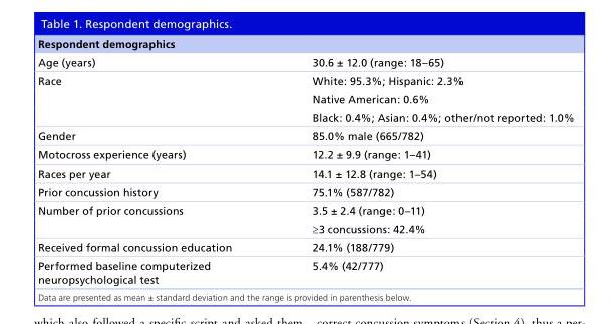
<table><thead><tr><td>Respondent demographics</td><td></td></tr></thead><tbody><tr><td>Age (years)</td><td>30.6 ± 12.0 (range: 18–65)</td></tr><tr><td rowspan="3">Race</td><td>White: 95.3%; Hispanic: 2.3%</td></tr><tr><td>Native American: 0.6%</td></tr><tr><td>Black: 0.4%; Asian: 0.4%; other/not reported: 1.0%</td></tr><tr><td>Gender</td><td>85.0% male (665/782)</td></tr><tr><td>Motocross experience (years)</td><td>12.2 ± 9.9 (range: 1–41)</td></tr><tr><td>Races per year</td><td>14.1 ± 12.8 (range: 1–54)</td></tr><tr><td>Prior concussion history</td><td>75.1% (587/782)</td></tr><tr><td rowspan="2">Number of prior concussions</td><td>3.5 ± 2.4 (range: 0–11)</td></tr><tr><td>≥3 concussions: 42.4%</td></tr><tr><td>Received formal concussion education</td><td>24.1% (188/779)</td></tr><tr><td>Performed baseline computerized neuropsychological test</td><td>5.4% (42/777)</td></tr></tbody></table>